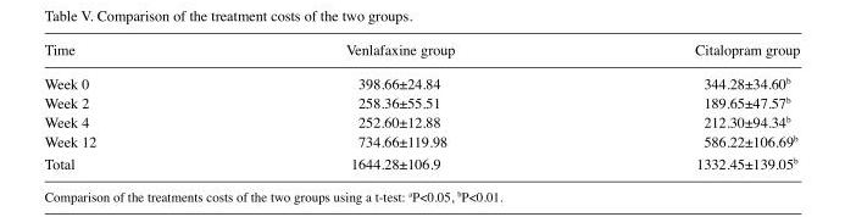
<table><thead><tr><td>Time</td><td>Venlafaxine group</td><td>Citalopram group</td></tr></thead><tbody><tr><td>Week 0</td><td>398.66±24.84</td><td>344.28±34.60<sup>b</sup></td></tr><tr><td>Week 2</td><td>258.36±55.51</td><td>189.65±47.57<sup>b</sup></td></tr><tr><td>Week 4</td><td>252.60±12.88</td><td>212.30±94.34<sup>b</sup></td></tr><tr><td>Week 12</td><td>734.66±119.98</td><td>586.22±106.69<sup>b</sup></td></tr><tr><td>Total</td><td>1644.28±106.9</td><td>1332.45±139.05<sup>b</sup></td></tr></tbody></table>